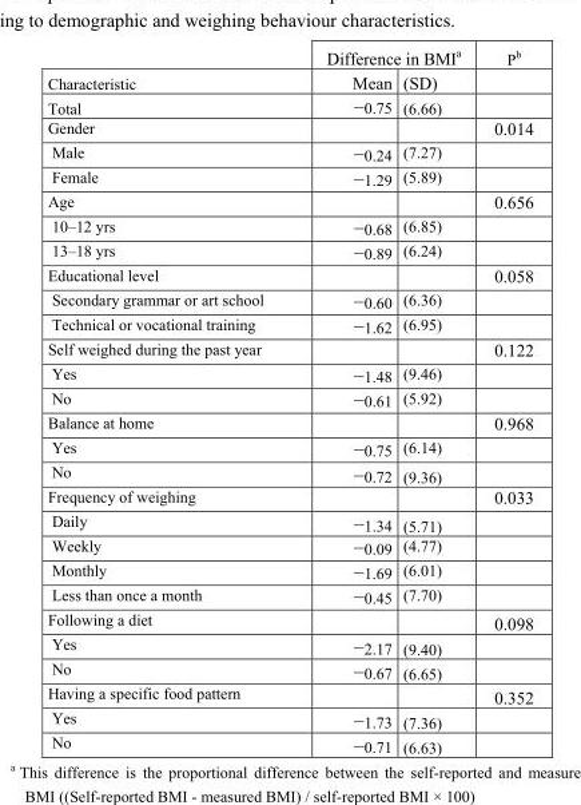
<table><thead><tr><td rowspan="2">Characteristic</td><td colspan="2">Difference in BMI<sup>a</sup></td><td rowspan="2">P<sup>b</sup></td></tr><tr><td>Mean</td><td>(SD)</td></tr></thead><tbody><tr><td>Total</td><td>−0.75</td><td>(6.66)</td><td></td></tr><tr><td>Gender</td><td></td><td></td><td>0.014</td></tr><tr><td>Male</td><td>−0.24</td><td>(7.27)</td><td></td></tr><tr><td>Female</td><td>−1.29</td><td>(5.89)</td><td></td></tr><tr><td>Age</td><td></td><td></td><td>0.656</td></tr><tr><td>10–12 yrs</td><td>−0.68</td><td>(6.85)</td><td></td></tr><tr><td>13–18 yrs</td><td>−0.89</td><td>(6.24)</td><td></td></tr><tr><td>Educational level</td><td></td><td></td><td>0.058</td></tr><tr><td>Secondary grammar or art school</td><td>−0.60</td><td>(6.36)</td><td></td></tr><tr><td>Technical or vocational training</td><td>−1.62</td><td>(6.95)</td><td></td></tr><tr><td>Self weighed during the past year</td><td></td><td></td><td>0.122</td></tr><tr><td>Yes</td><td>−1.48</td><td>(9.46)</td><td></td></tr><tr><td>No</td><td>−0.61</td><td>(5.92)</td><td></td></tr><tr><td>Balance at home</td><td></td><td></td><td>0.968</td></tr><tr><td>Yes</td><td>−0.75</td><td>(6.14)</td><td></td></tr><tr><td>No</td><td>−0.72</td><td>(9.36)</td><td></td></tr><tr><td>Frequency of weighing</td><td></td><td></td><td>0.033</td></tr><tr><td>Daily</td><td>−1.34</td><td>(5.71)</td><td></td></tr><tr><td>Weekly</td><td>−0.09</td><td>(4.77)</td><td></td></tr><tr><td>Monthly</td><td>−1.69</td><td>(6.01)</td><td></td></tr><tr><td>Less than once a month</td><td>−0.45</td><td>(7.70)</td><td></td></tr><tr><td>Following a diet</td><td></td><td></td><td>0.098</td></tr><tr><td>Yes</td><td>−2.17</td><td>(9.40)</td><td></td></tr><tr><td>No</td><td>−0.67</td><td>(6.65)</td><td></td></tr><tr><td>Having a specific food pattern</td><td></td><td></td><td>0.352</td></tr><tr><td>Yes</td><td>−1.73</td><td>(7.36)</td><td></td></tr><tr><td>No</td><td>−0.71</td><td>(6.63)</td><td></td></tr></tbody></table>